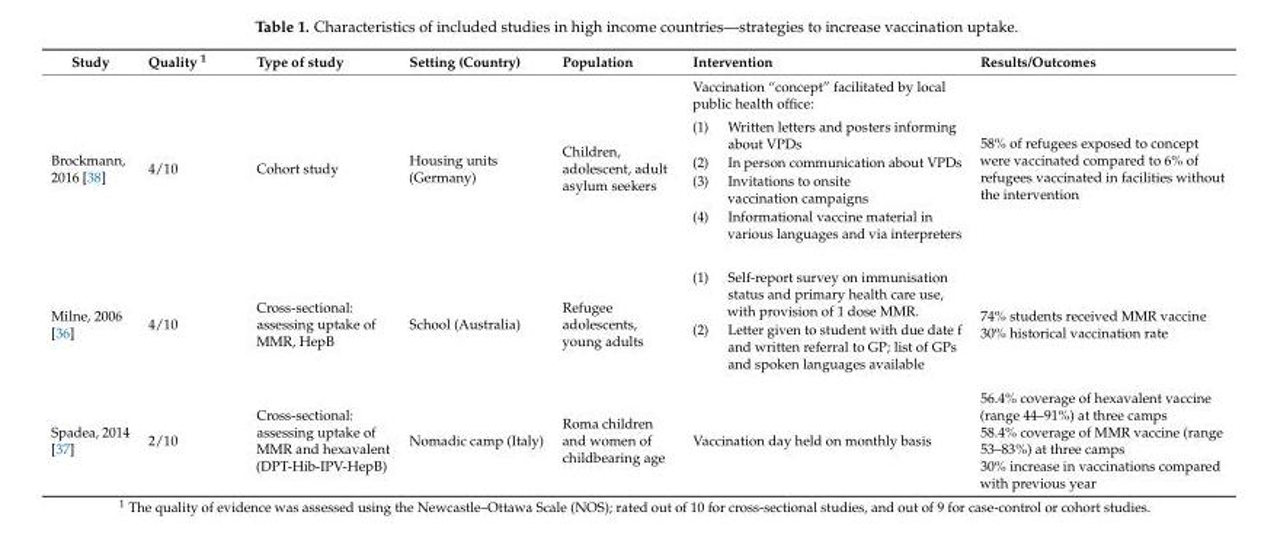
<table><thead><tr><td>Study</td><td>Quality <sup>1</sup></td><td>Type of study</td><td>Setting (Country)</td><td>Population</td><td>Intervention</td><td>Results/Outcomes</td></tr></thead><tbody><tr><td>Brockmann, 2016 [38]</td><td>4/10</td><td>Cohort study</td><td>Housing units (Germany)</td><td>Children, adolescent, adult asylum seekers</td><td>Vaccination “concept” facilitated by local public health office: (1) Written letters and posters informing about VPDs (2) In person communication about VPDs (3) Invitations to onsite vaccination campaigns (4) Informational vaccine material in various languages and via interpreters</td><td>58% of refugees exposed to concept were vaccinated compared to 6% of refugees vaccinated in facilities without the intervention</td></tr><tr><td>Milne, 2006 [36]</td><td>4/10</td><td>Cross-sectional: assessing uptake of MMR, HepB</td><td>School (Australia)</td><td>Refugee adolescents, young adults</td><td>(1) Self-report survey on immunisation status and primary health care use, with provision of 1 dose MMR. (2) Letter given to student with due date f and written referral to GP; list of GPs and spoken languages available</td><td>74% students received MMR vaccine 30% historical vaccination rate</td></tr><tr><td>Spadea, 2014 [37]</td><td>2/10</td><td>Cross-sectional: assessing uptake of MMR and hexavalent (DPT-Hib-IPV-HepB)</td><td>Nomadic camp (Italy)</td><td>Roma children and women of childbearing age</td><td>Vaccination day held on monthly basis</td><td>56.4% coverage of hexavalent vaccine (range 44–91%) at three camps 58.4% coverage of MMR vaccine (range 53–83%) at three camps 30% increase in vaccinations compared with previous year</td></tr></tbody></table>